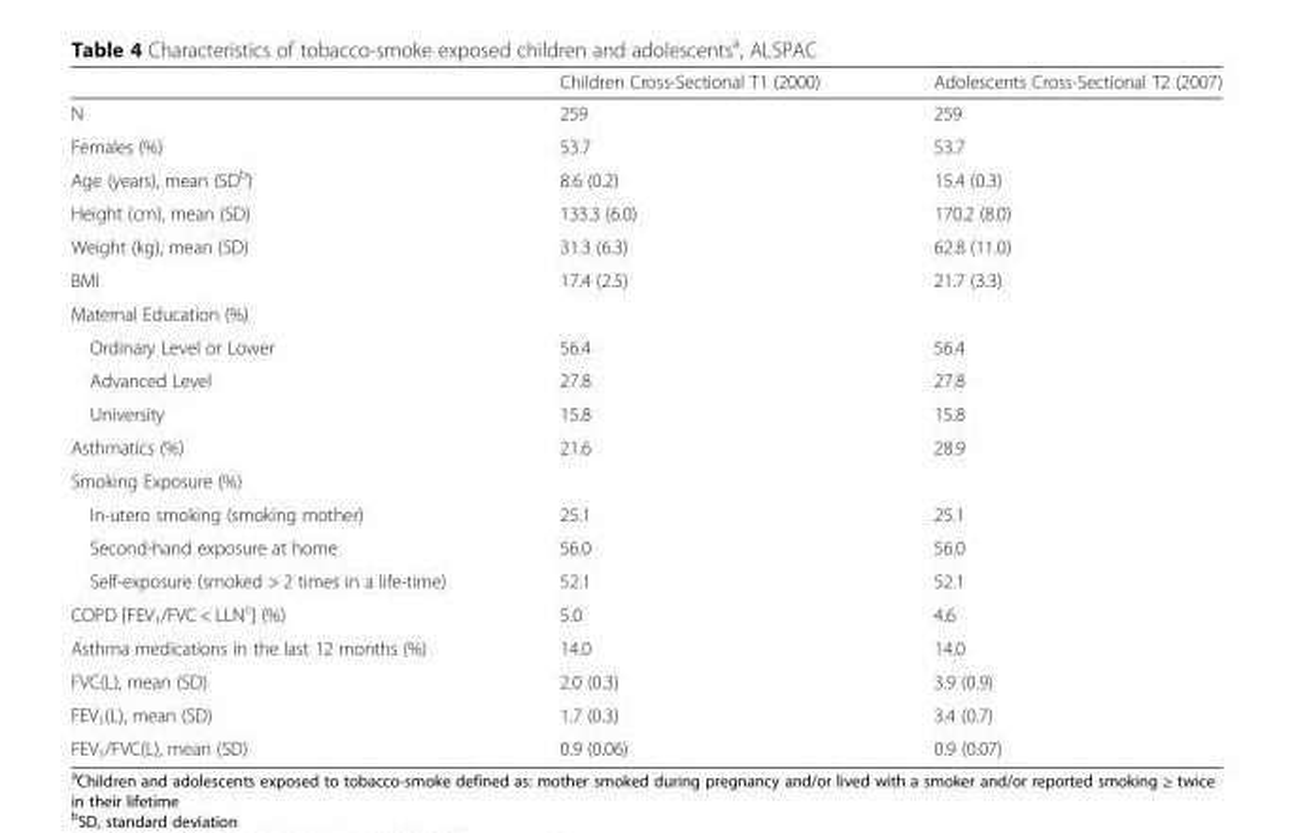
<table><thead><tr><td></td><td>Children Cross-Sectional T1 (2000)</td><td>Adolescents Cross-Sectional T2 (2007)</td></tr></thead><tbody><tr><td>N</td><td>259</td><td>259</td></tr><tr><td>Females (%)</td><td>53.7</td><td>53.7</td></tr><tr><td>Age (years), mean (SD<sup>b</sup>)</td><td>8.6 (0.2)</td><td>15.4 (0.3)</td></tr><tr><td>Height (cm), mean (SD)</td><td>133.3 (6.0)</td><td>170.2 (8.0)</td></tr><tr><td>Weight (kg), mean (SD)</td><td>31.3 (6.3)</td><td>62.8 (11.0)</td></tr><tr><td>BMI</td><td>17.4 (2.5)</td><td>21.7 (3.3)</td></tr><tr><td colspan="3">Maternal Education (%)</td></tr><tr><td>Ordinary Level or Lower</td><td>56.4</td><td>56.4</td></tr><tr><td>Advanced Level</td><td>27.8</td><td>27.8</td></tr><tr><td>University</td><td>15.8</td><td>15.8</td></tr><tr><td>Asthmatics (%)</td><td>21.6</td><td>28.9</td></tr><tr><td colspan="3">Smoking Exposure (%)</td></tr><tr><td>In-utero smoking (smoking mother)</td><td>25.1</td><td>25.1</td></tr><tr><td>Second-hand exposure at home</td><td>56.0</td><td>56.0</td></tr><tr><td>Self-exposure (smoked &gt; 2 times in a life-time)</td><td>52.1</td><td>52.1</td></tr><tr><td>COPD [FEV<sub>1</sub>/FVC &lt; LLN<sup>c</sup>] (%)</td><td>5.0</td><td>4.6</td></tr><tr><td>Asthma medications in the last 12 months (%)</td><td>14.0</td><td>14.0</td></tr><tr><td>FVC(L), mean (SD)</td><td>2.0 (0.3)</td><td>3.9 (0.9)</td></tr><tr><td>FEV<sub>1</sub>(L), mean (SD)</td><td>1.7 (0.3)</td><td>3.4 (0.7)</td></tr><tr><td>FEV<sub>1</sub>/FVC(L), mean (SD)</td><td>0.9 (0.06)</td><td>0.9 (0.07)</td></tr></tbody></table>